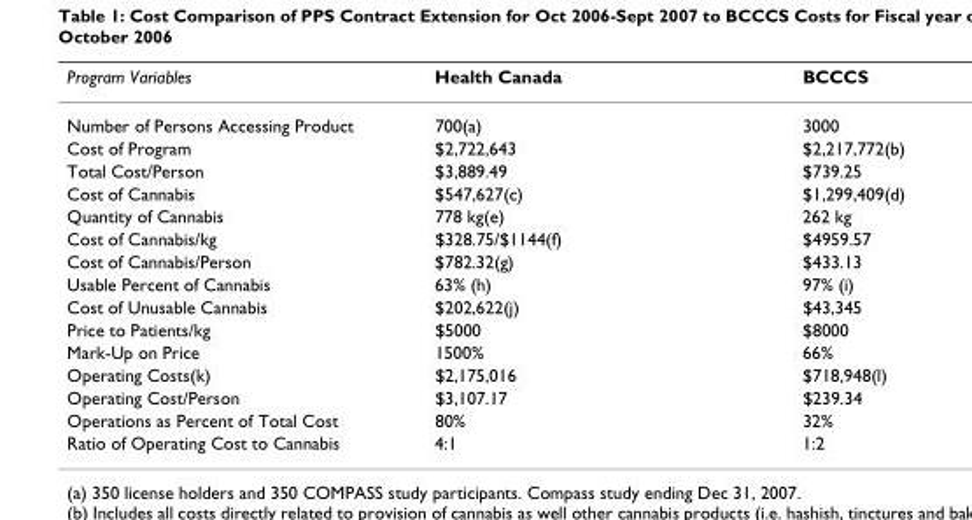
<table><thead><tr><td>Program Variables</td><td>Health Canada</td><td>BCCCS</td></tr></thead><tbody><tr><td>Number of Persons Accessing Product</td><td>700(a)</td><td>3000</td></tr><tr><td>Cost of Program</td><td>$2,722,643</td><td>$2,217,772(b)</td></tr><tr><td>Total Cost/Person</td><td>$3,889.49</td><td>$739.25</td></tr><tr><td>Cost of Cannabis</td><td>$547,627(c)</td><td>$1,299,409(d)</td></tr><tr><td>Quantity of Cannabis</td><td>778 kg(e)</td><td>262 kg</td></tr><tr><td>Cost of Cannabis/kg</td><td>$328.75/$1144(f)</td><td>$4959.57</td></tr><tr><td>Cost of Cannabis/Person</td><td>$782.32(g)</td><td>$433.13</td></tr><tr><td>Usable Percent of Cannabis</td><td>63% (h)</td><td>97% (i)</td></tr><tr><td>Cost of Unusable Cannabis</td><td>$202,622(j)</td><td>$43,345</td></tr><tr><td>Price to Patients/kg</td><td>$5000</td><td>$8000</td></tr><tr><td>Mark-Up on Price</td><td>1500%</td><td>66%</td></tr><tr><td>Operating Costs(k)</td><td>$2,175,016</td><td>$718,948(l)</td></tr><tr><td>Operating Cost/Person</td><td>$3,107.17</td><td>$239.34</td></tr><tr><td>Operations as Percent of Total Cost</td><td>80%</td><td>32%</td></tr><tr><td>Ratio of Operating Cost to Cannabis</td><td>4:1</td><td>1:2</td></tr></tbody></table>